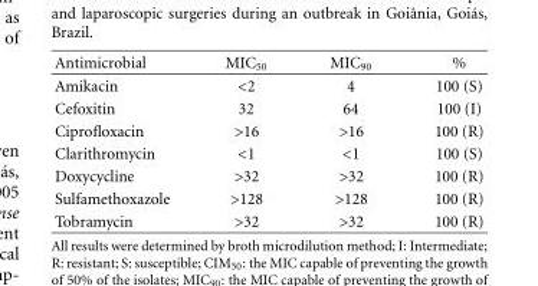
<table><thead><tr><td>Antimicrobial</td><td>MIC<sub>50</sub></td><td>MIC<sub>90</sub></td><td>%</td></tr></thead><tbody><tr><td>Amikacin</td><td>&lt;2</td><td>4</td><td>100 (S)</td></tr><tr><td>Cefoxitin</td><td>32</td><td>64</td><td>100 (I)</td></tr><tr><td>Ciprofloxacin</td><td>&gt;16</td><td>&gt;16</td><td>100 (R)</td></tr><tr><td>Clarithromycin</td><td>&lt;1</td><td>&lt;1</td><td>100 (S)</td></tr><tr><td>Doxycycline</td><td>&gt;32</td><td>&gt;32</td><td>100 (R)</td></tr><tr><td>Sulfamethoxazole</td><td>&gt;128</td><td>&gt;128</td><td>100 (R)</td></tr><tr><td>Tobramycin</td><td>&gt;32</td><td>&gt;32</td><td>100 (R)</td></tr></tbody></table>